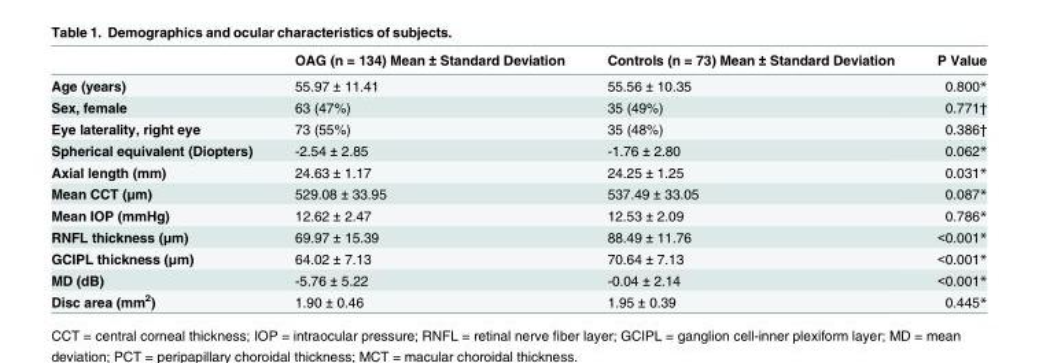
<table><thead><tr><td></td><td>OAG (n = 134) Mean ± Standard Deviation</td><td>Controls (n = 73) Mean ± Standard Deviation</td><td>P Value</td></tr></thead><tbody><tr><td>Age (years)</td><td>55.97 ± 11.41</td><td>55.56 ± 10.35</td><td>0.800*</td></tr><tr><td>Sex, female</td><td>63 (47%)</td><td>35 (49%)</td><td>0.771†</td></tr><tr><td>Eye laterality, right eye</td><td>73 (55%)</td><td>35 (48%)</td><td>0.386†</td></tr><tr><td>Spherical equivalent (Diopters)</td><td>-2.54 ± 2.85</td><td>-1.76 ± 2.80</td><td>0.062*</td></tr><tr><td>Axial length (mm)</td><td>24.63 ± 1.17</td><td>24.25 ± 1.25</td><td>0.031*</td></tr><tr><td>Mean CCT (μm)</td><td>529.08 ± 33.95</td><td>537.49 ± 33.05</td><td>0.087*</td></tr><tr><td>Mean IOP (mmHg)</td><td>12.62 ± 2.47</td><td>12.53 ± 2.09</td><td>0.786*</td></tr><tr><td>RNFL thickness (μm)</td><td>69.97 ± 15.39</td><td>88.49 ± 11.76</td><td>&lt;0.001*</td></tr><tr><td>GCIPL thickness (μm)</td><td>64.02 ± 7.13</td><td>70.64 ± 7.13</td><td>&lt;0.001*</td></tr><tr><td>MD (dB)</td><td>-5.76 ± 5.22</td><td>-0.04 ± 2.14</td><td>&lt;0.001*</td></tr><tr><td>Disc area (mm<sup>2</sup>)</td><td>1.90 ± 0.46</td><td>1.95 ± 0.39</td><td>0.445*</td></tr></tbody></table>